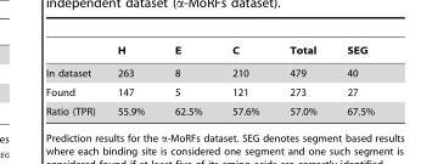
<table><thead><tr><td></td><td>H</td><td>E</td><td>C</td><td>Total</td><td>SEG</td></tr></thead><tbody><tr><td>In dataset</td><td>263</td><td>8</td><td>210</td><td>479</td><td>40</td></tr><tr><td>Found</td><td>147</td><td>5</td><td>121</td><td>273</td><td>27</td></tr><tr><td>Ratio (TPR)</td><td>55.9%</td><td>62.5%</td><td>57.6%</td><td>57.0%</td><td>67.5%</td></tr></tbody></table>